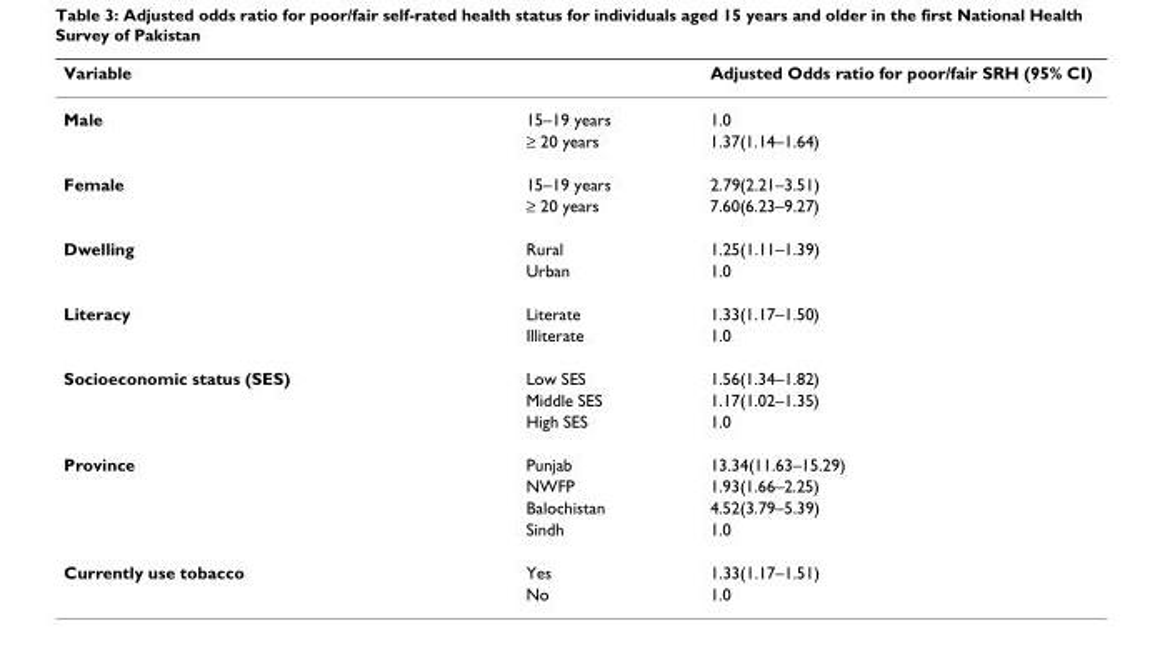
<table><thead><tr><td>Variable</td><td></td><td>Adjusted Odds ratio for poor/fair SRH (95% CI)</td></tr></thead><tbody><tr><td rowspan="2">Male</td><td>15–19 years</td><td>1.0</td></tr><tr><td>≥ 20 years</td><td>1.37(1.14–1.64)</td></tr><tr><td rowspan="2">Female</td><td>15–19 years</td><td>2.79(2.21–3.51)</td></tr><tr><td>≥ 20 years</td><td>7.60(6.23–9.27)</td></tr><tr><td rowspan="2">Dwelling</td><td>Rural</td><td>1.25(1.11–1.39)</td></tr><tr><td>Urban</td><td>1.0</td></tr><tr><td rowspan="2">Literacy</td><td>Literate</td><td>1.33(1.17–1.50)</td></tr><tr><td>Illiterate</td><td>1.0</td></tr><tr><td rowspan="3">Socioeconomic status (SES)</td><td>Low SES</td><td>1.56(1.34–1.82)</td></tr><tr><td>Middle SES</td><td>1.17(1.02–1.35)</td></tr><tr><td>High SES</td><td>1.0</td></tr><tr><td rowspan="4">Province</td><td>Punjab</td><td>13.34(11.63–15.29)</td></tr><tr><td>NWFP</td><td>1.93(1.66–2.25)</td></tr><tr><td>Balochistan</td><td>4.52(3.79–5.39)</td></tr><tr><td>Sindh</td><td>1.0</td></tr><tr><td rowspan="2">Currently use tobacco</td><td>Yes</td><td>1.33(1.17–1.51)</td></tr><tr><td>No</td><td>1.0</td></tr></tbody></table>